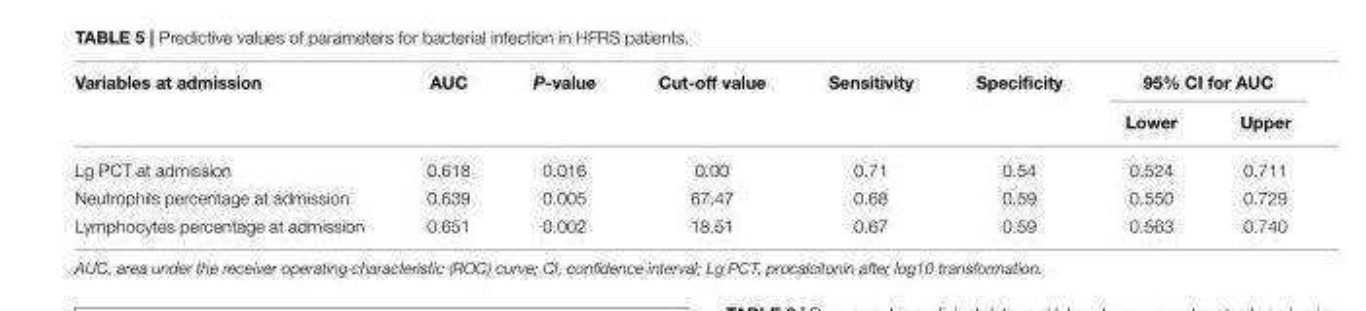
<table><thead><tr><td rowspan="2">Variables at admission</td><td rowspan="2">AUC</td><td rowspan="2">P-value</td><td rowspan="2">Cut-off value</td><td rowspan="2">Sensitivity</td><td rowspan="2">Specificity</td><td colspan="2">95% CI for AUC</td></tr><tr><td>Lower</td><td>Upper</td></tr></thead><tbody><tr><td>Lg PCT at admission</td><td>0.618</td><td>0.016</td><td>0.00</td><td>0.71</td><td>0.54</td><td>0.524</td><td>0.711</td></tr><tr><td>Neutrophils percentage at admission</td><td>0.639</td><td>0.005</td><td>67.47</td><td>0.68</td><td>0.59</td><td>0.550</td><td>0.729</td></tr><tr><td>Lymphocytes percentage at admission</td><td>0.651</td><td>0.002</td><td>18.51</td><td>0.67</td><td>0.59</td><td>0.563</td><td>0.740</td></tr></tbody></table>